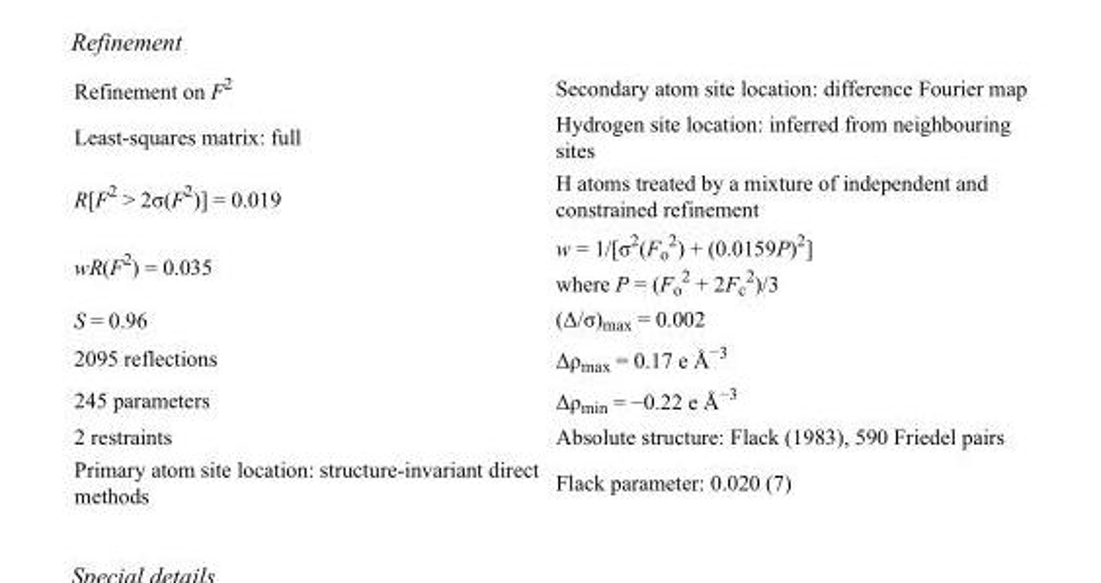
<table><tbody><tr><td>Refinement on F<sup>2</sup></td><td>Secondary atom site location: difference Fourier map</td></tr><tr><td>Least-squares matrix: full</td><td>Hydrogen site location: inferred from neighbouring sites</td></tr><tr><td>R[F<sup>2</sup> &gt; 2σ(F<sup>2</sup>)] = 0.019</td><td>H atoms treated by a mixture of independent and constrained refinement</td></tr><tr><td>wR(F<sup>2</sup>) = 0.035</td><td>w = 1/[σ<sup>2</sup>(F<sub>o</sub> <sup>2</sup>) + (0.0159P)<sup>2</sup>] where P = (F<sub>o</sub> <sup>2</sup> + 2F<sub>c</sub> <sup>2</sup>)/3</td></tr><tr><td>S = 0.96</td><td>(Δ/σ)<sub>max</sub> = 0.002</td></tr><tr><td>2095 reflections</td><td>Δρ<sub>max</sub> = 0.17 e Å<sup>−3</sup></td></tr><tr><td>245 parameters</td><td>Δρ<sub>min</sub> = −0.22 e Å<sup>−3</sup></td></tr><tr><td>2 restraints</td><td>Absolute structure: Flack (1983), 590 Friedel pairs</td></tr><tr><td>Primary atom site location: structure-invariant direct methods</td><td>Flack parameter: 0.020 (7)</td></tr></tbody></table>